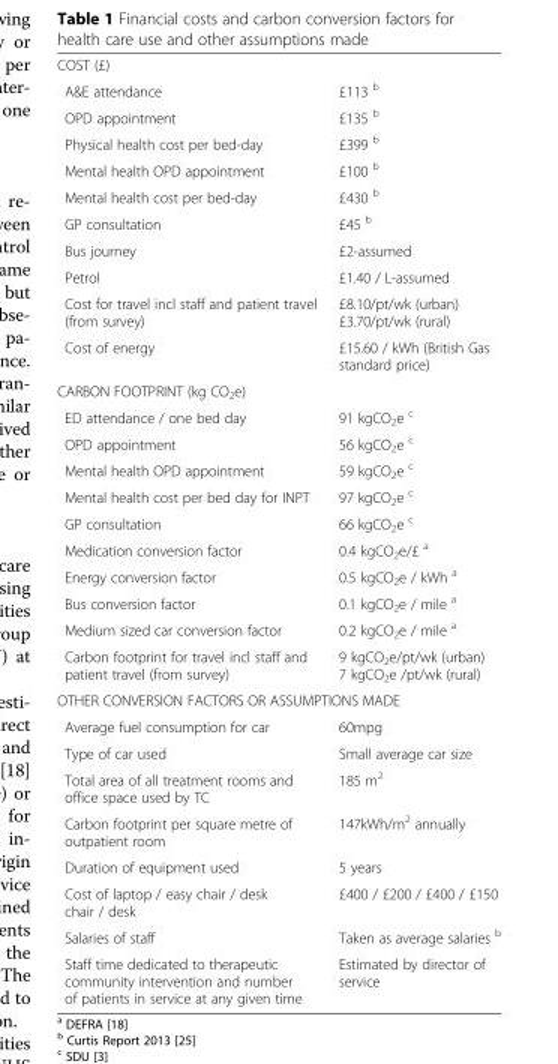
<table><tbody><tr><td colspan="2">COST (£)</td></tr><tr><td>A&amp;E attendance</td><td>£113 <sup>b</sup></td></tr><tr><td>OPD appointment</td><td>£135 <sup>b</sup></td></tr><tr><td>Physical health cost per bed-day</td><td>£399 <sup>b</sup></td></tr><tr><td>Mental health OPD appointment</td><td>£100 <sup>b</sup></td></tr><tr><td>Mental health cost per bed-day</td><td>£430 <sup>b</sup></td></tr><tr><td>GP consultation</td><td>£45 <sup>b</sup></td></tr><tr><td>Bus journey</td><td>£2-assumed</td></tr><tr><td>Petrol</td><td>£1.40 / L-assumed</td></tr><tr><td>Cost for travel incl staff and patient travel (from survey)</td><td>£8.10/pt/wk (urban) £3.70/pt/wk (rural)</td></tr><tr><td>Cost of energy</td><td>£15.60 / kWh (British Gas standard price)</td></tr><tr><td colspan="2">CARBON FOOTPRINT (kg CO<sub>2</sub>e)</td></tr><tr><td>ED attendance / one bed day</td><td>91 kgCO<sub>2</sub>e <sup>c</sup></td></tr><tr><td>OPD appointment</td><td>56 kgCO<sub>2</sub>e <sup>c</sup></td></tr><tr><td>Mental health OPD appointment</td><td>59 kgCO<sub>2</sub>e <sup>c</sup></td></tr><tr><td>Mental health cost per bed day for INPT</td><td>97 kgCO<sub>2</sub>e <sup>c</sup></td></tr><tr><td>GP consultation</td><td>66 kgCO<sub>2</sub>e <sup>c</sup></td></tr><tr><td>Medication conversion factor</td><td>0.4 kgCO<sub>2</sub>e/£ <sup>a</sup></td></tr><tr><td>Energy conversion factor</td><td>0.5 kgCO<sub>2</sub>e / kWh <sup>a</sup></td></tr><tr><td>Bus conversion factor</td><td>0.1 kgCO<sub>2</sub>e / mile <sup>a</sup></td></tr><tr><td>Medium sized car conversion factor</td><td>0.2 kgCO<sub>2</sub>e / mile <sup>a</sup></td></tr><tr><td>Carbon footprint for travel incl staff and patient travel (from survey)</td><td>9 kgCO<sub>2</sub>e/pt/wk (urban) 7 kgCO<sub>2</sub>e /pt/wk (rural)</td></tr><tr><td colspan="2">OTHER CONVERSION FACTORS OR ASSUMPTIONS MADE</td></tr><tr><td>Average fuel consumption for car</td><td>60mpg</td></tr><tr><td>Type of car used</td><td>Small average car size</td></tr><tr><td>Total area of all treatment rooms and office space used by TC</td><td>185 m<sup>2</sup></td></tr><tr><td>Carbon footprint per square metre of outpatient room</td><td>147kWh/m<sup>2</sup> annually</td></tr><tr><td>Duration of equipment used</td><td>5 years</td></tr><tr><td>Cost of laptop / easy chair / desk chair / desk</td><td>£400 / £200 / £400 / £150</td></tr><tr><td>Salaries of staff</td><td>Taken as average salaries <sup>b</sup></td></tr><tr><td>Staff time dedicated to therapeutic community intervention and number of patients in service at any given time</td><td>Estimated by director of service</td></tr></tbody></table>